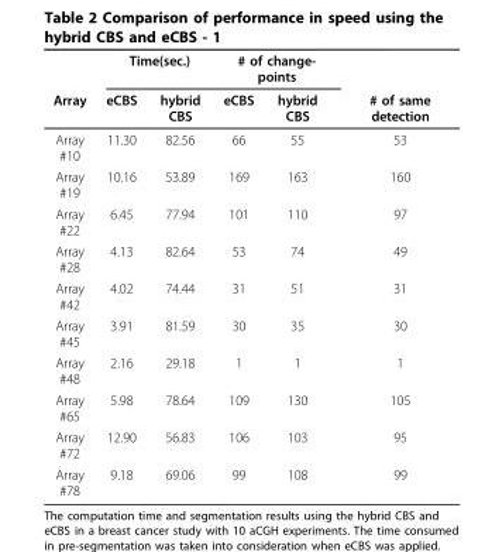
<table><thead><tr><td rowspan="2">Array</td><td colspan="2">Time(sec.)</td><td colspan="2"># of change- points</td><td rowspan="2"># of same detection</td></tr><tr><td>eCBS</td><td>hybrid CBS</td><td>eCBS</td><td>hybrid CBS</td></tr></thead><tbody><tr><td>Array #10</td><td>11.30</td><td>82.56</td><td>66</td><td>55</td><td>53</td></tr><tr><td>Array #19</td><td>10.16</td><td>53.89</td><td>169</td><td>163</td><td>160</td></tr><tr><td>Array #22</td><td>6.45</td><td>77.94</td><td>101</td><td>110</td><td>97</td></tr><tr><td>Array #28</td><td>4.13</td><td>82.64</td><td>53</td><td>74</td><td>49</td></tr><tr><td>Array #42</td><td>4.02</td><td>74.44</td><td>31</td><td>51</td><td>31</td></tr><tr><td>Array #45</td><td>3.91</td><td>81.59</td><td>30</td><td>35</td><td>30</td></tr><tr><td>Array #48</td><td>2.16</td><td>29.18</td><td>1</td><td>1</td><td>1</td></tr><tr><td>Array #65</td><td>5.98</td><td>78.64</td><td>109</td><td>130</td><td>105</td></tr><tr><td>Array #72</td><td>12.90</td><td>56.83</td><td>106</td><td>103</td><td>95</td></tr><tr><td>Array #78</td><td>9.18</td><td>69.06</td><td>99</td><td>108</td><td>99</td></tr></tbody></table>